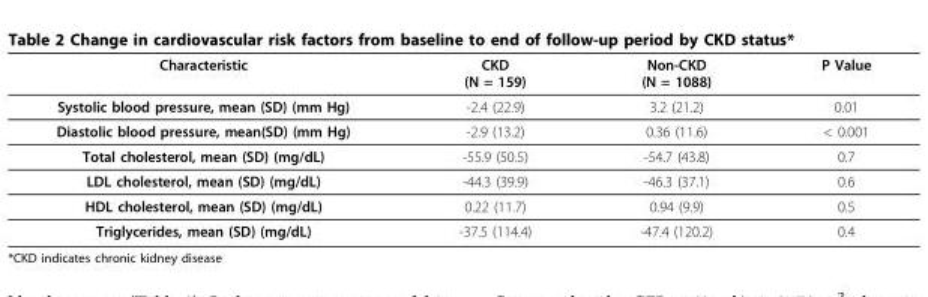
<table><thead><tr><td>Characteristic</td><td>CKD (N = 159)</td><td>Non-CKD (N = 1088)</td><td>P Value</td></tr></thead><tbody><tr><td>Systolic blood pressure, mean (SD) (mm Hg)</td><td>-2.4 (22.9)</td><td>3.2 (21.2)</td><td>0.01</td></tr><tr><td>Diastolic blood pressure, mean(SD) (mm Hg)</td><td>-2.9 (13.2)</td><td>0.36 (11.6)</td><td>&lt; 0.001</td></tr><tr><td>Total cholesterol, mean (SD) (mg/dL)</td><td>-55.9 (50.5)</td><td>-54.7 (43.8)</td><td>0.7</td></tr><tr><td>LDL cholesterol, mean (SD) (mg/dL)</td><td>-44.3 (39.9)</td><td>-46.3 (37.1)</td><td>0.6</td></tr><tr><td>HDL cholesterol, mean (SD) (mg/dL)</td><td>0.22 (11.7)</td><td>0.94 (9.9)</td><td>0.5</td></tr><tr><td>Triglycerides, mean (SD) (mg/dL)</td><td>-37.5 (114.4)</td><td>-47.4 (120.2)</td><td>0.4</td></tr></tbody></table>